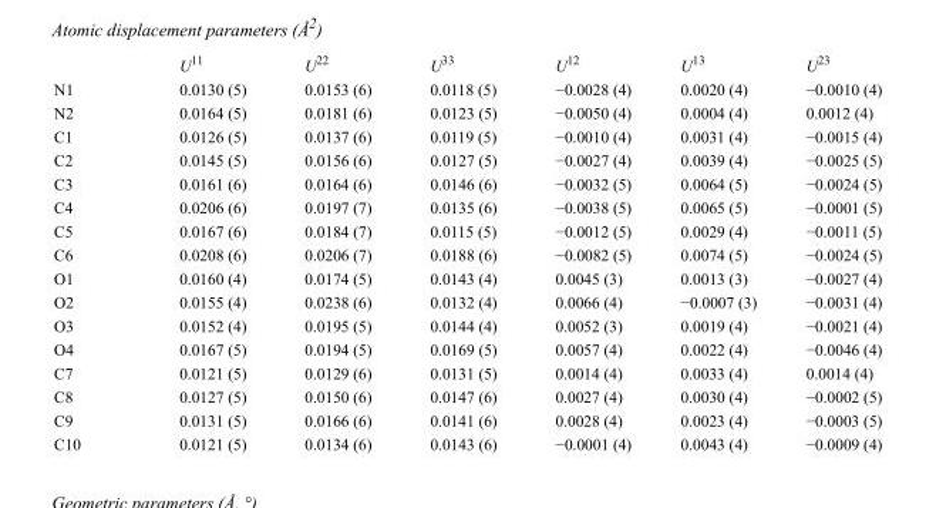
<table><thead><tr><td></td><td>U<sup>11</sup></td><td>U<sup>22</sup></td><td>U<sup>33</sup></td><td>U<sup>12</sup></td><td>U<sup>13</sup></td><td>U<sup>23</sup></td></tr></thead><tbody><tr><td>N1</td><td>0.0130 (5)</td><td>0.0153 (6)</td><td>0.0118 (5)</td><td>−0.0028 (4)</td><td>0.0020 (4)</td><td>−0.0010 (4)</td></tr><tr><td>N2</td><td>0.0164 (5)</td><td>0.0181 (6)</td><td>0.0123 (5)</td><td>−0.0050 (4)</td><td>0.0004 (4)</td><td>0.0012 (4)</td></tr><tr><td>C1</td><td>0.0126 (5)</td><td>0.0137 (6)</td><td>0.0119 (5)</td><td>−0.0010 (4)</td><td>0.0031 (4)</td><td>−0.0015 (4)</td></tr><tr><td>C2</td><td>0.0145 (5)</td><td>0.0156 (6)</td><td>0.0127 (5)</td><td>−0.0027 (4)</td><td>0.0039 (4)</td><td>−0.0025 (5)</td></tr><tr><td>C3</td><td>0.0161 (6)</td><td>0.0164 (6)</td><td>0.0146 (6)</td><td>−0.0032 (5)</td><td>0.0064 (5)</td><td>−0.0024 (5)</td></tr><tr><td>C4</td><td>0.0206 (6)</td><td>0.0197 (7)</td><td>0.0135 (6)</td><td>−0.0038 (5)</td><td>0.0065 (5)</td><td>−0.0001 (5)</td></tr><tr><td>C5</td><td>0.0167 (6)</td><td>0.0184 (7)</td><td>0.0115 (5)</td><td>−0.0012 (5)</td><td>0.0029 (4)</td><td>−0.0011 (5)</td></tr><tr><td>C6</td><td>0.0208 (6)</td><td>0.0206 (7)</td><td>0.0188 (6)</td><td>−0.0082 (5)</td><td>0.0074 (5)</td><td>−0.0024 (5)</td></tr><tr><td>O1</td><td>0.0160 (4)</td><td>0.0174 (5)</td><td>0.0143 (4)</td><td>0.0045 (3)</td><td>0.0013 (3)</td><td>−0.0027 (4)</td></tr><tr><td>O2</td><td>0.0155 (4)</td><td>0.0238 (6)</td><td>0.0132 (4)</td><td>0.0066 (4)</td><td>−0.0007 (3)</td><td>−0.0031 (4)</td></tr><tr><td>O3</td><td>0.0152 (4)</td><td>0.0195 (5)</td><td>0.0144 (4)</td><td>0.0052 (3)</td><td>0.0019 (4)</td><td>−0.0021 (4)</td></tr><tr><td>O4</td><td>0.0167 (5)</td><td>0.0194 (5)</td><td>0.0169 (5)</td><td>0.0057 (4)</td><td>0.0022 (4)</td><td>−0.0046 (4)</td></tr><tr><td>C7</td><td>0.0121 (5)</td><td>0.0129 (6)</td><td>0.0131 (5)</td><td>0.0014 (4)</td><td>0.0033 (4)</td><td>0.0014 (4)</td></tr><tr><td>C8</td><td>0.0127 (5)</td><td>0.0150 (6)</td><td>0.0147 (6)</td><td>0.0027 (4)</td><td>0.0030 (4)</td><td>−0.0002 (5)</td></tr><tr><td>C9</td><td>0.0131 (5)</td><td>0.0166 (6)</td><td>0.0141 (6)</td><td>0.0028 (4)</td><td>0.0023 (4)</td><td>−0.0003 (5)</td></tr><tr><td>C10</td><td>0.0121 (5)</td><td>0.0134 (6)</td><td>0.0143 (6)</td><td>−0.0001 (4)</td><td>0.0043 (4)</td><td>−0.0009 (4)</td></tr></tbody></table>